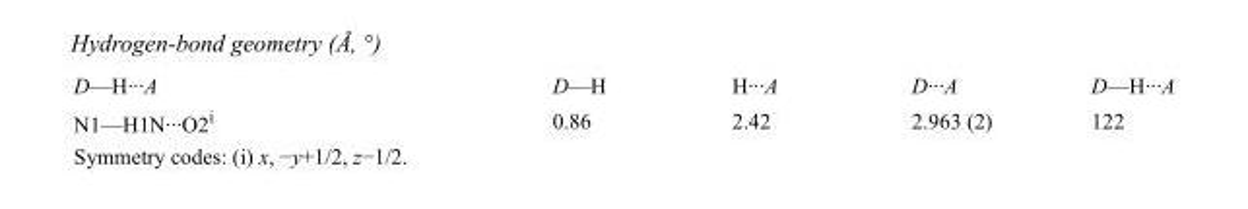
<table><tbody><tr><td>D—H···A</td><td>D—H</td><td>H···A</td><td>D···A</td><td>D—H···A</td></tr><tr><td>N1—H1N···O2<sup>i</sup></td><td>0.86</td><td>2.42</td><td>2.963 (2)</td><td>122</td></tr></tbody></table>